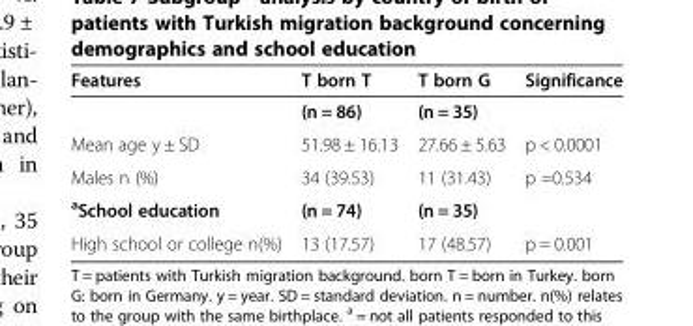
<table><thead><tr><td>Features</td><td>T born T</td><td>T born G</td><td>Significance</td></tr></thead><tbody><tr><td></td><td>(n = 86)</td><td>(n = 35)</td><td></td></tr><tr><td>Mean age y ± SD</td><td>51.98 ± 16.13</td><td>27.66 ± 5.63</td><td>p &lt; 0.0001</td></tr><tr><td>Males n (%)</td><td>34 (39.53)</td><td>11 (31.43)</td><td>p =0.534</td></tr><tr><td><sup>a</sup>School education</td><td>(n = 74)</td><td>(n = 35)</td><td></td></tr><tr><td>High school or college n(%)</td><td>13 (17.57)</td><td>17 (48.57)</td><td>p = 0.001</td></tr></tbody></table>